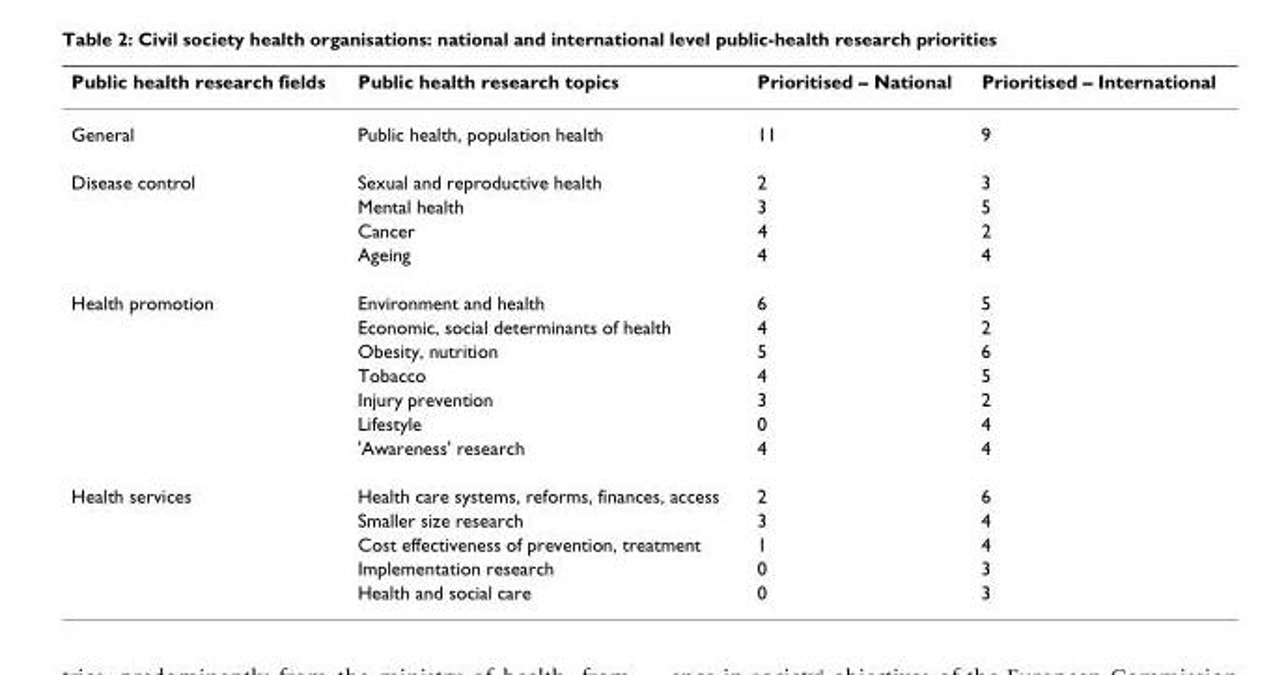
<table><thead><tr><td>Public health research fields</td><td>Public health research topics</td><td>Prioritised – National</td><td>Prioritised – International</td></tr></thead><tbody><tr><td>General</td><td>Public health, population health</td><td>11</td><td>9</td></tr><tr><td rowspan="4">Disease control</td><td>Sexual and reproductive health</td><td>2</td><td>3</td></tr><tr><td>Mental health</td><td>3</td><td>5</td></tr><tr><td>Cancer</td><td>4</td><td>2</td></tr><tr><td>Ageing</td><td>4</td><td>4</td></tr><tr><td rowspan="7">Health promotion</td><td>Environment and health</td><td>6</td><td>5</td></tr><tr><td>Economic, social determinants of health</td><td>4</td><td>2</td></tr><tr><td>Obesity, nutrition</td><td>5</td><td>6</td></tr><tr><td>Tobacco</td><td>4</td><td>5</td></tr><tr><td>Injury prevention</td><td>3</td><td>2</td></tr><tr><td>Lifestyle</td><td>0</td><td>4</td></tr><tr><td>&#x27;Awareness&#x27; research</td><td>4</td><td>4</td></tr><tr><td rowspan="5">Health services</td><td>Health care systems, reforms, finances, access</td><td>2</td><td>6</td></tr><tr><td>Smaller size research</td><td>3</td><td>4</td></tr><tr><td>Cost effectiveness of prevention, treatment</td><td>1</td><td>4</td></tr><tr><td>Implementation research</td><td>0</td><td>3</td></tr><tr><td>Health and social care</td><td>0</td><td>3</td></tr></tbody></table>